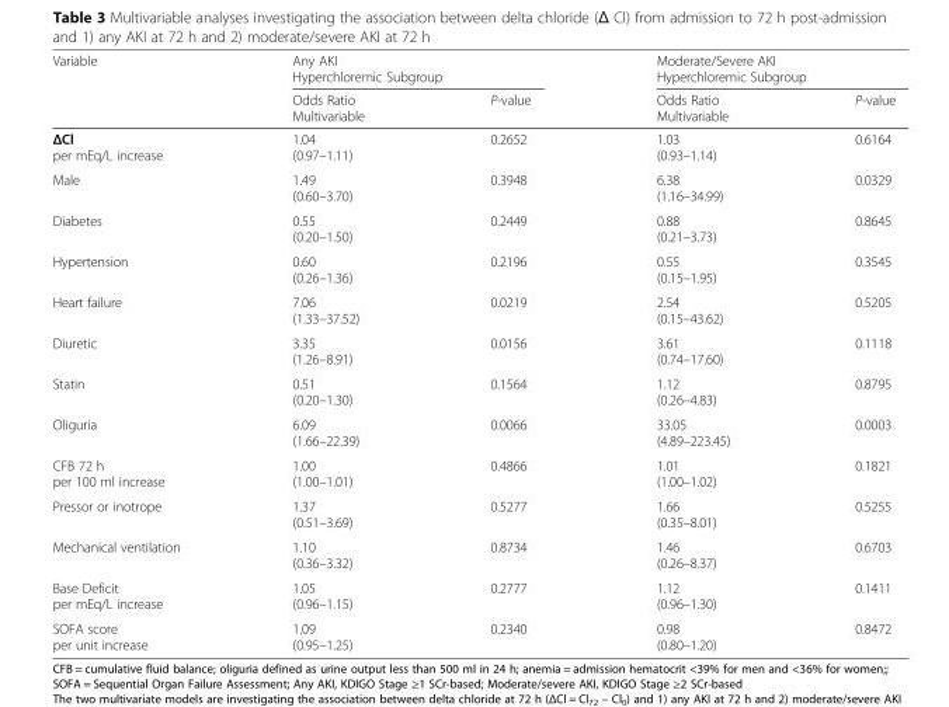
<table><thead><tr><td rowspan="2">Variable</td><td colspan="2">Any AKI Hyperchloremic Subgroup</td><td colspan="2">Moderate/Severe AKI Hyperchloremic Subgroup</td></tr><tr><td>Odds Ratio Multivariable</td><td>P-value</td><td>Odds Ratio Multivariable</td><td>P-value</td></tr></thead><tbody><tr><td>ΔCl per mEq/L increase</td><td>1.04 (0.97–1.11)</td><td>0.2652</td><td>1.03 (0.93–1.14)</td><td>0.6164</td></tr><tr><td>Male</td><td>1.49 (0.60–3.70)</td><td>0.3948</td><td>6.38 (1.16–34.99)</td><td>0.0329</td></tr><tr><td>Diabetes</td><td>0.55 (0.20–1.50)</td><td>0.2449</td><td>0.88 (0.21–3.73)</td><td>0.8645</td></tr><tr><td>Hypertension</td><td>0.60 (0.26–1.36)</td><td>0.2196</td><td>0.55 (0.15–1.95)</td><td>0.3545</td></tr><tr><td>Heart failure</td><td>7.06 (1.33–37.52)</td><td>0.0219</td><td>2.54 (0.15–43.62)</td><td>0.5205</td></tr><tr><td>Diuretic</td><td>3.35 (1.26–8.91)</td><td>0.0156</td><td>3.61 (0.74–17.60)</td><td>0.1118</td></tr><tr><td>Statin</td><td>0.51 (0.20–1.30)</td><td>0.1564</td><td>1.12 (0.26–4.83)</td><td>0.8795</td></tr><tr><td>Oliguria</td><td>6.09 (1.66–22.39)</td><td>0.0066</td><td>33.05 (4.89–223.45)</td><td>0.0003</td></tr><tr><td>CFB 72 h per 100 ml increase</td><td>1.00 (1.00–1.01)</td><td>0.4866</td><td>1.01 (1.00–1.02)</td><td>0.1821</td></tr><tr><td>Pressor or inotrope</td><td>1.37 (0.51–3.69)</td><td>0.5277</td><td>1.66 (0.35–8.01)</td><td>0.5255</td></tr><tr><td>Mechanical ventilation</td><td>1.10 (0.36–3.32)</td><td>0.8734</td><td>1.46 (0.26–8.37)</td><td>0.6703</td></tr><tr><td>Base Deficit per mEq/L increase</td><td>1.05 (0.96–1.15)</td><td>0.2777</td><td>1.12 (0.96–1.30)</td><td>0.1411</td></tr><tr><td>SOFA score per unit increase</td><td>1.09 (0.95–1.25)</td><td>0.2340</td><td>0.98 (0.80–1.20)</td><td>0.8472</td></tr></tbody></table>